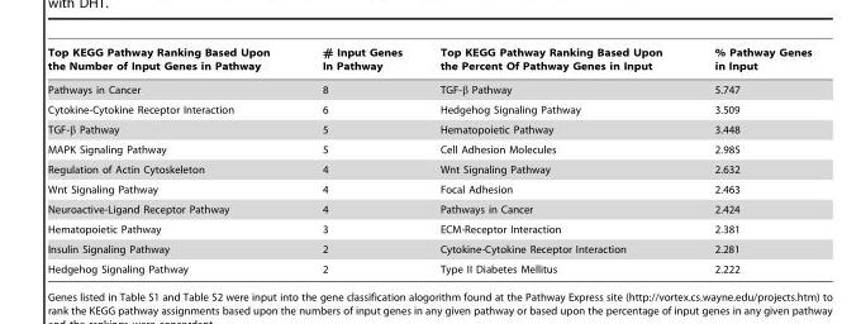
<table><thead><tr><td>Top KEGG Pathway Ranking Based Upon the Number of Input Genes in Pathway</td><td># Input Genes In Pathway</td><td>Top KEGG Pathway Ranking Based Upon the Percent Of Pathway Genes in Input</td><td>% Pathway Genes in Input</td></tr></thead><tbody><tr><td>Pathways in Cancer</td><td>8</td><td>TGF-β Pathway</td><td>5.747</td></tr><tr><td>Cytokine-Cytokine Receptor Interaction</td><td>6</td><td>Hedgehog Signaling Pathway</td><td>3.509</td></tr><tr><td>TGF-β Pathway</td><td>5</td><td>Hematopoietic Pathway</td><td>3.448</td></tr><tr><td>MAPK Signaling Pathway</td><td>5</td><td>Cell Adhesion Molecules</td><td>2.985</td></tr><tr><td>Regulation of Actin Cytoskeleton</td><td>4</td><td>Wnt Signaling Pathway</td><td>2.632</td></tr><tr><td>Wnt Signaling Pathway</td><td>4</td><td>Focal Adhesion</td><td>2.463</td></tr><tr><td>Neuroactive-Ligand Receptor Pathway</td><td>4</td><td>Pathways in Cancer</td><td>2.424</td></tr><tr><td>Hematopoietic Pathway</td><td>3</td><td>ECM-Receptor Interaction</td><td>2.381</td></tr><tr><td>Insulin Signaling Pathway</td><td>2</td><td>Cytokine-Cytokine Receptor Interaction</td><td>2.281</td></tr><tr><td>Hedgehog Signaling Pathway</td><td>2</td><td>Type II Diabetes Mellitus</td><td>2.222</td></tr></tbody></table>